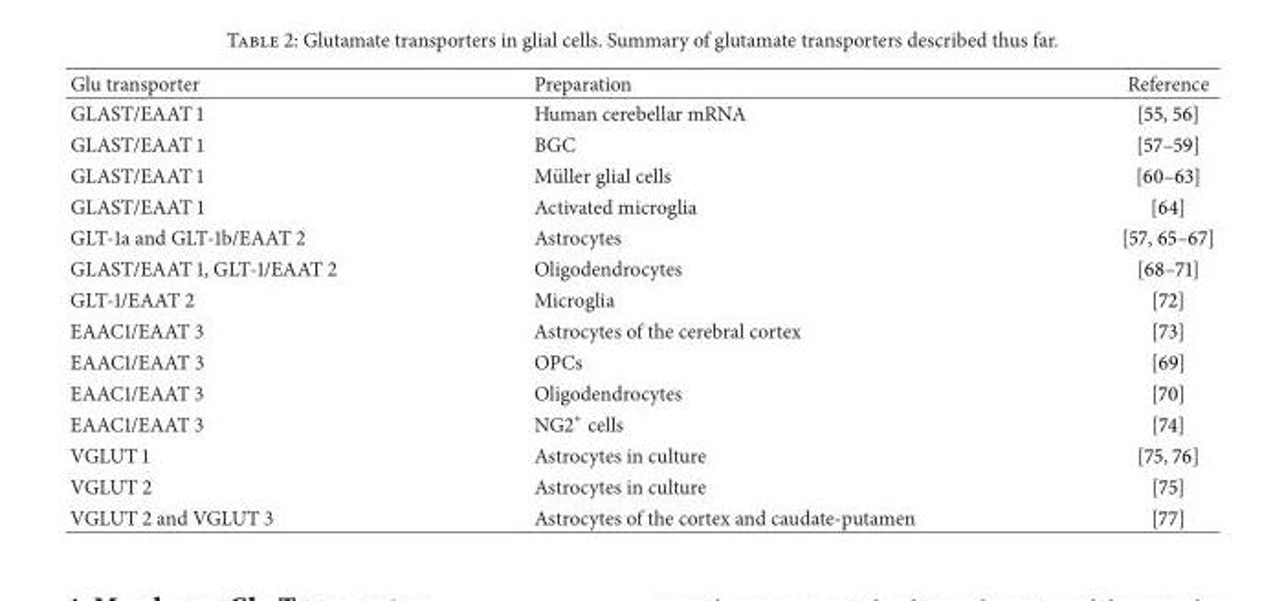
<table><thead><tr><td>Glu transporter</td><td>Preparation</td><td>Reference</td></tr></thead><tbody><tr><td>GLAST/EAAT 1</td><td>Human cerebellar mRNA</td><td>[55, 56]</td></tr><tr><td>GLAST/EAAT 1</td><td>BGC</td><td>[57–59]</td></tr><tr><td>GLAST/EAAT 1</td><td>M¨uller glial cells</td><td>[60–63]</td></tr><tr><td>GLAST/EAAT 1</td><td>Activated microglia</td><td>[64]</td></tr><tr><td>GLT-1a and GLT-1b/EAAT 2</td><td>Astrocytes</td><td>[57, 65–67]</td></tr><tr><td>GLAST/EAAT 1, GLT-1/EAAT 2</td><td>Oligodendrocytes</td><td>[68–71]</td></tr><tr><td>GLT-1/EAAT 2</td><td>Microglia</td><td>[72]</td></tr><tr><td>EAAC1/EAAT 3</td><td>Astrocytes of the cerebral cortex</td><td>[73]</td></tr><tr><td>EAAC1/EAAT 3</td><td>OPCs</td><td>[69]</td></tr><tr><td>EAAC1/EAAT 3</td><td>Oligodendrocytes</td><td>[70]</td></tr><tr><td>EAAC1/EAAT 3</td><td>NG2<sup>+</sup> cells</td><td>[74]</td></tr><tr><td>VGLUT 1</td><td>Astrocytes in culture</td><td>[75, 76]</td></tr><tr><td>VGLUT 2</td><td>Astrocytes in culture</td><td>[75]</td></tr><tr><td>VGLUT 2 and VGLUT 3</td><td>Astrocytes of the cortex and caudate-putamen</td><td>[77]</td></tr></tbody></table>